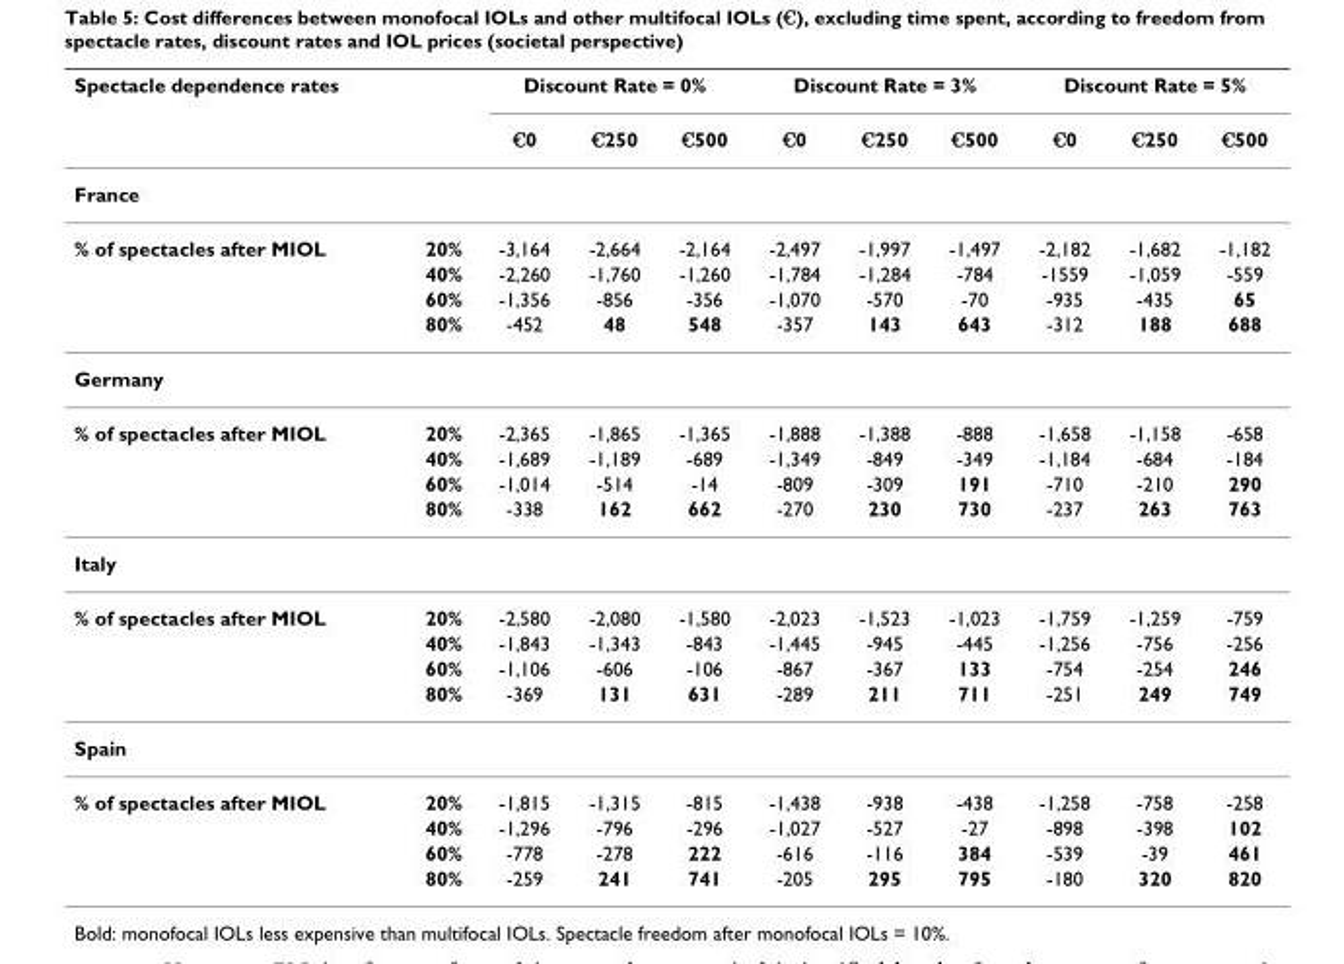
<table><thead><tr><td colspan="2">Spectacle dependence rates</td><td colspan="3">Discount Rate = 0%</td><td colspan="3">Discount Rate = 3%</td><td colspan="3">Discount Rate = 5%</td></tr><tr><td></td><td></td><td>€0</td><td>€250</td><td>€500</td><td>€0</td><td>€250</td><td>€500</td><td>€0</td><td>€250</td><td>€500</td></tr></thead><tbody><tr><td colspan="11">France</td></tr><tr><td rowspan="4">% of spectacles after MIOL</td><td>20%</td><td>-3,164</td><td>-2,664</td><td>-2,164</td><td>-2,497</td><td>-1,997</td><td>-1,497</td><td>-2,182</td><td>-1,682</td><td>-1,182</td></tr><tr><td>40%</td><td>-2,260</td><td>-1,760</td><td>-1,260</td><td>-1,784</td><td>-1,284</td><td>-784</td><td>-1559</td><td>-1,059</td><td>-559</td></tr><tr><td>60%</td><td>-1,356</td><td>-856</td><td>-356</td><td>-1,070</td><td>-570</td><td>-70</td><td>-935</td><td>-435</td><td>65</td></tr><tr><td>80%</td><td>-452</td><td>48</td><td>548</td><td>-357</td><td>143</td><td>643</td><td>-312</td><td>188</td><td>688</td></tr><tr><td colspan="11">Germany</td></tr><tr><td rowspan="4">% of spectacles after MIOL</td><td>20%</td><td>-2,365</td><td>-1,865</td><td>-1,365</td><td>-1,888</td><td>-1,388</td><td>-888</td><td>-1,658</td><td>-1,158</td><td>-658</td></tr><tr><td>40%</td><td>-1,689</td><td>-1,189</td><td>-689</td><td>-1,349</td><td>-849</td><td>-349</td><td>-1,184</td><td>-684</td><td>-184</td></tr><tr><td>60%</td><td>-1,014</td><td>-514</td><td>-14</td><td>-809</td><td>-309</td><td>191</td><td>-710</td><td>-210</td><td>290</td></tr><tr><td>80%</td><td>-338</td><td>162</td><td>662</td><td>-270</td><td>230</td><td>730</td><td>-237</td><td>263</td><td>763</td></tr><tr><td colspan="11">Italy</td></tr><tr><td rowspan="4">% of spectacles after MIOL</td><td>20%</td><td>-2,580</td><td>-2,080</td><td>-1,580</td><td>-2,023</td><td>-1,523</td><td>-1,023</td><td>-1,759</td><td>-1,259</td><td>-759</td></tr><tr><td>40%</td><td>-1,843</td><td>-1,343</td><td>-843</td><td>-1,445</td><td>-945</td><td>-445</td><td>-1,256</td><td>-756</td><td>-256</td></tr><tr><td>60%</td><td>-1,106</td><td>-606</td><td>-106</td><td>-867</td><td>-367</td><td>133</td><td>-754</td><td>-254</td><td>246</td></tr><tr><td>80%</td><td>-369</td><td>131</td><td>631</td><td>-289</td><td>211</td><td>711</td><td>-251</td><td>249</td><td>749</td></tr><tr><td colspan="11">Spain</td></tr><tr><td rowspan="4">% of spectacles after MIOL</td><td>20%</td><td>-1,815</td><td>-1,315</td><td>-815</td><td>-1,438</td><td>-938</td><td>-438</td><td>-1,258</td><td>-758</td><td>-258</td></tr><tr><td>40%</td><td>-1,296</td><td>-796</td><td>-296</td><td>-1,027</td><td>-527</td><td>-27</td><td>-898</td><td>-398</td><td>102</td></tr><tr><td>60%</td><td>-778</td><td>-278</td><td>222</td><td>-616</td><td>-116</td><td>384</td><td>-539</td><td>-39</td><td>461</td></tr><tr><td>80%</td><td>-259</td><td>241</td><td>741</td><td>-205</td><td>295</td><td>795</td><td>-180</td><td>320</td><td>820</td></tr></tbody></table>